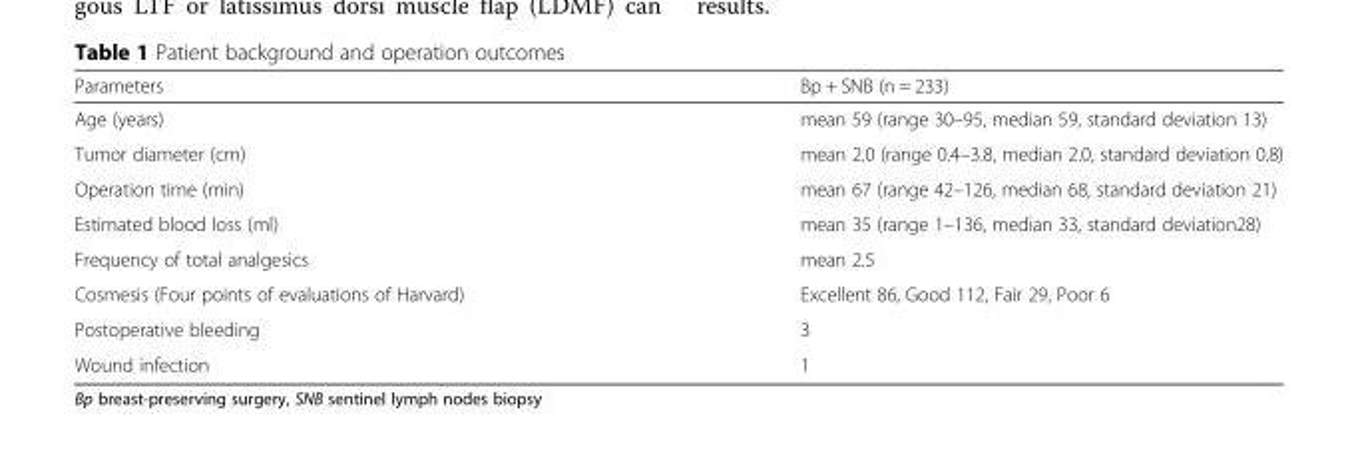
<table><thead><tr><td>Parameters</td><td>Bp + SNB (n = 233)</td></tr></thead><tbody><tr><td>Age (years)</td><td>mean 59 (range 30–95, median 59, standard deviation 13)</td></tr><tr><td>Tumor diameter (cm)</td><td>mean 2.0 (range 0.4–3.8, median 2.0, standard deviation 0.8)</td></tr><tr><td>Operation time (min)</td><td>mean 67 (range 42–126, median 68, standard deviation 21)</td></tr><tr><td>Estimated blood loss (ml)</td><td>mean 35 (range 1–136, median 33, standard deviation28)</td></tr><tr><td>Frequency of total analgesics</td><td>mean 2.5</td></tr><tr><td>Cosmesis (Four points of evaluations of Harvard)</td><td>Excellent 86, Good 112, Fair 29, Poor 6</td></tr><tr><td>Postoperative bleeding</td><td>3</td></tr><tr><td>Wound infection</td><td>1</td></tr></tbody></table>